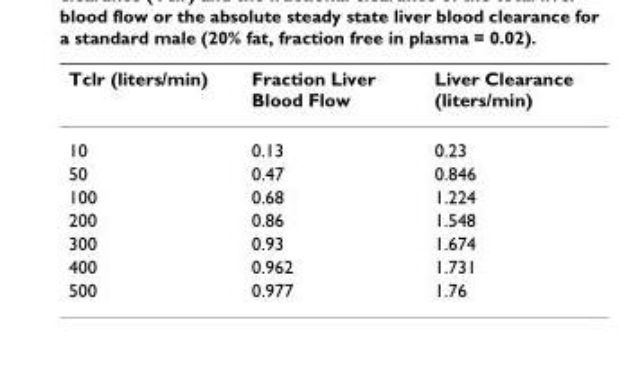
<table><thead><tr><td>Tclr (liters/min)</td><td>Fraction Liver Blood Flow</td><td>Liver Clearance (liters/min)</td></tr></thead><tbody><tr><td>10</td><td>0.13</td><td>0.23</td></tr><tr><td>50</td><td>0.47</td><td>0.846</td></tr><tr><td>100</td><td>0.68</td><td>1.224</td></tr><tr><td>200</td><td>0.86</td><td>1.548</td></tr><tr><td>300</td><td>0.93</td><td>1.674</td></tr><tr><td>400</td><td>0.962</td><td>1.731</td></tr><tr><td>500</td><td>0.977</td><td>1.76</td></tr></tbody></table>